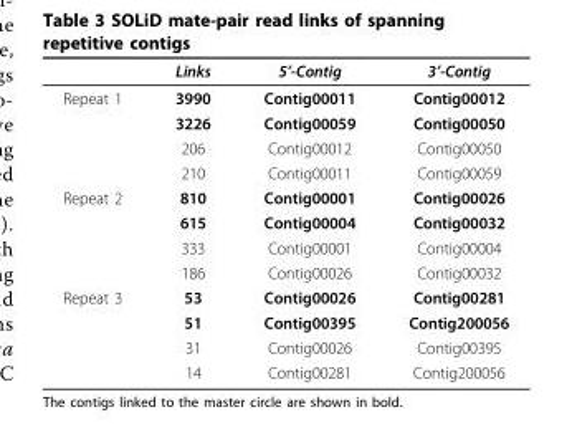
<table><thead><tr><td></td><td>Links</td><td>5’-Contig</td><td>3’-Contig</td></tr></thead><tbody><tr><td rowspan="4">Repeat 1</td><td>3990</td><td>Contig00011</td><td>Contig00012</td></tr><tr><td>3226</td><td>Contig00059</td><td>Contig00050</td></tr><tr><td>206</td><td>Contig00012</td><td>Contig00050</td></tr><tr><td>210</td><td>Contig00011</td><td>Contig00059</td></tr><tr><td rowspan="4">Repeat 2</td><td>810</td><td>Contig00001</td><td>Contig00026</td></tr><tr><td>615</td><td>Contig00004</td><td>Contig00032</td></tr><tr><td>333</td><td>Contig00001</td><td>Contig00004</td></tr><tr><td>186</td><td>Contig00026</td><td>Contig00032</td></tr><tr><td rowspan="4">Repeat 3</td><td>53</td><td>Contig00026</td><td>Contig00281</td></tr><tr><td>51</td><td>Contig00395</td><td>Contig200056</td></tr><tr><td>31</td><td>Contig00026</td><td>Contig00395</td></tr><tr><td>14</td><td>Contig00281</td><td>Contig200056</td></tr></tbody></table>